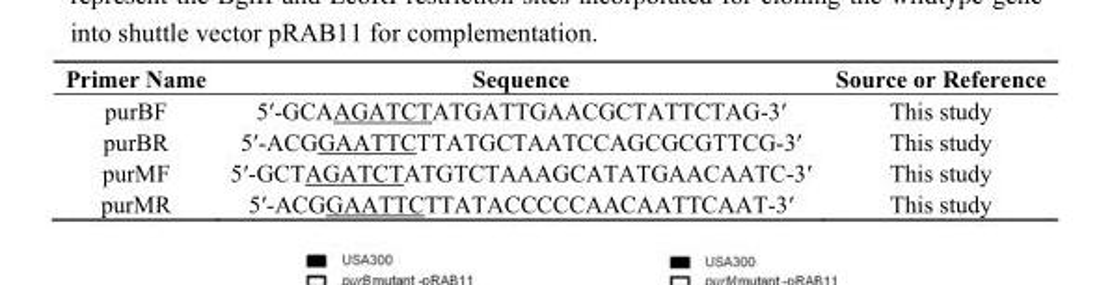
<table><thead><tr><td>Primer Name</td><td>Sequence</td><td>Source or Reference</td></tr></thead><tbody><tr><td>purBF</td><td>5′-GCAAGATCTATGATTGAACGCTATTCTAG-3′</td><td>This study</td></tr><tr><td>purBR</td><td>5′-ACGGAATTCTTATGCTAATCCAGCGCGTTCG-3′</td><td>This study</td></tr><tr><td>purMF</td><td>5′-GCTAGATCTATGTCTAAAGCATATGAACAATC-3′</td><td>This study</td></tr><tr><td>purMR</td><td>5′-ACGGAATTCTTATACCCCCAACAATTCAAT-3′</td><td>This study</td></tr></tbody></table>